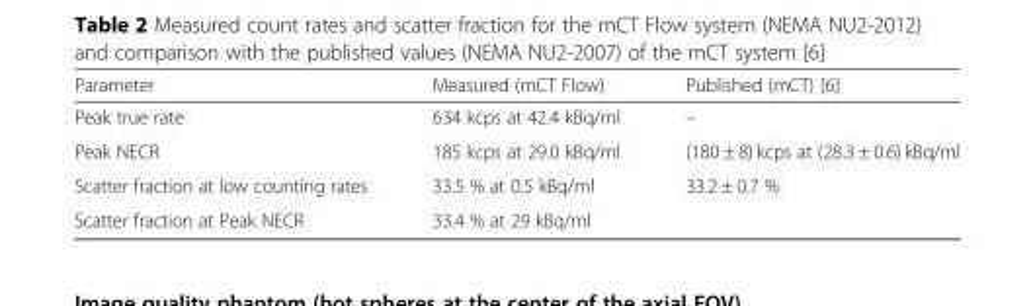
<table><thead><tr><td>Parameter</td><td>Measured (mCT Flow)</td><td>Published (mCT) [6]</td></tr></thead><tbody><tr><td>Peak true rate</td><td>634 kcps at 42.4 kBq/ml</td><td>–</td></tr><tr><td>Peak NECR</td><td>185 kcps at 29.0 kBq/ml</td><td>(180 ± 8) kcps at (28.3 ± 0.6) kBq/ml</td></tr><tr><td>Scatter fraction at low counting rates</td><td>33.5 % at 0.5 kBq/ml</td><td>33.2 ± 0.7 %</td></tr><tr><td>Scatter fraction at Peak NECR</td><td>33.4 % at 29 kBq/ml</td><td></td></tr></tbody></table>